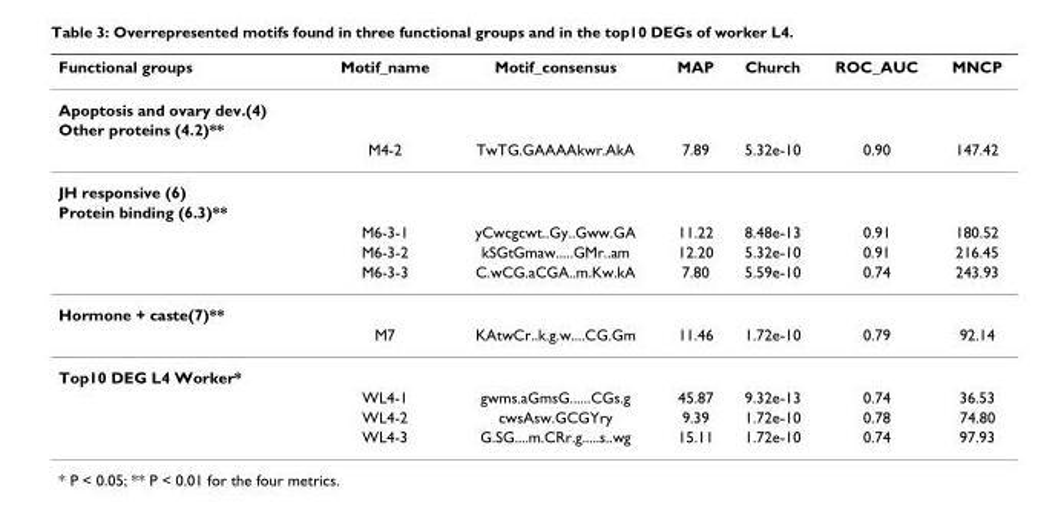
<table><thead><tr><td>Functional groups</td><td>Motif_name</td><td>Motif_consensus</td><td>MAP</td><td>Church</td><td>ROC_AUC</td><td>MNCP</td></tr></thead><tbody><tr><td colspan="7">Apoptosis and ovary dev.(4)</td></tr><tr><td colspan="7">Other proteins (4.2)**</td></tr><tr><td></td><td>M4-2</td><td>TwTG.GAAAAkwr.AkA</td><td>7.89</td><td>5.32e-10</td><td>0.90</td><td>147.42</td></tr><tr><td colspan="7">JH responsive (6)</td></tr><tr><td colspan="7">Protein binding (6.3)**</td></tr><tr><td></td><td>M6-3-1</td><td>yCwcgcwt..Gy..Gww.GA</td><td>11.22</td><td>8.48e-13</td><td>0.91</td><td>180.52</td></tr><tr><td></td><td>M6-3-2</td><td>kSGtGmaw.....GMr..am</td><td>12.20</td><td>5.32e-10</td><td>0.91</td><td>216.45</td></tr><tr><td></td><td>M6-3-3</td><td>C.wCG.aCGA..m.Kw.kA</td><td>7.80</td><td>5.59e-10</td><td>0.74</td><td>243.93</td></tr><tr><td colspan="7">Hormone + caste(7)**</td></tr><tr><td></td><td>M7</td><td>KAtwCr..k.g.w....CG.Gm</td><td>11.46</td><td>1.72e-10</td><td>0.79</td><td>92.14</td></tr><tr><td colspan="7">Top10 DEG L4 Worker*</td></tr><tr><td></td><td>WL4-1</td><td>gwms.aGmsG......CGs.g</td><td>45.87</td><td>9.32e-13</td><td>0.74</td><td>36.53</td></tr><tr><td></td><td>WL4-2</td><td>cwsAsw.GCGYry</td><td>9.39</td><td>1.72e-10</td><td>0.78</td><td>74.80</td></tr><tr><td></td><td>WL4-3</td><td>G.SG....m.CRr.g.....s..wg</td><td>15.11</td><td>1.72e-10</td><td>0.74</td><td>97.93</td></tr></tbody></table>